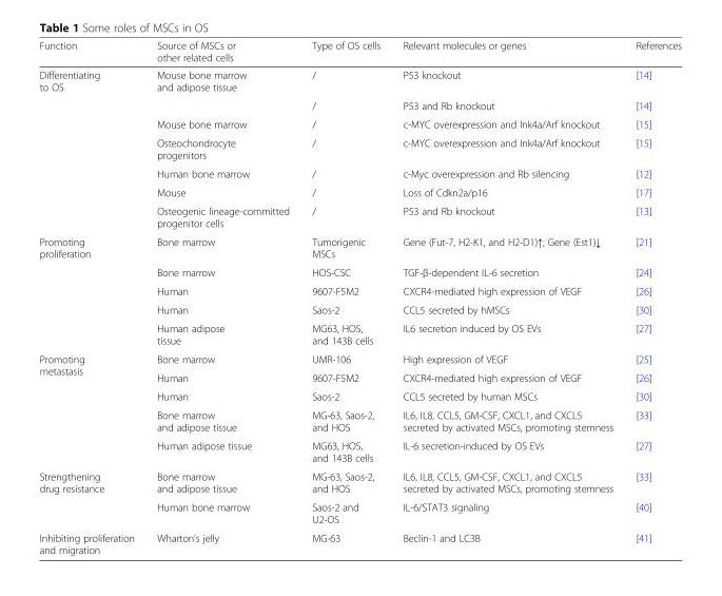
<table><thead><tr><td>Function</td><td>Source of MSCs or other related cells</td><td>Type of OS cells</td><td>Relevant molecules or genes</td><td>References</td></tr></thead><tbody><tr><td rowspan="7">Differentiating to OS</td><td>Mouse bone marrow and adipose tissue</td><td>/</td><td>P53 knockout</td><td>[14]</td></tr><tr><td></td><td>/</td><td>P53 and Rb knockout</td><td>[14]</td></tr><tr><td>Mouse bone marrow</td><td>/</td><td>c-MYC overexpression and Ink4a/Arf knockout</td><td>[15]</td></tr><tr><td>Osteochondrocyte progenitors</td><td>/</td><td>c-MYC overexpression and Ink4a/Arf knockout</td><td>[15]</td></tr><tr><td>Human bone marrow</td><td>/</td><td>c-Myc overexpression and Rb silencing</td><td>[12]</td></tr><tr><td>Mouse</td><td>/</td><td>Loss of Cdkn2a/p16</td><td>[17]</td></tr><tr><td>Osteogenic lineage-committed progenitor cells</td><td>/</td><td>P53 and Rb knockout</td><td>[13]</td></tr><tr><td rowspan="5">Promoting proliferation</td><td>Bone marrow</td><td>Tumorigenic MSCs</td><td>Gene (Fut-7, H2-K1, and H2-D1)↑; Gene (Est1)↓</td><td>[21]</td></tr><tr><td>Bone marrow</td><td>HOS-CSC</td><td>TGF-β-dependent IL-6 secretion</td><td>[24]</td></tr><tr><td>Human</td><td>9607-F5M2</td><td>CXCR4-mediated high expression of VEGF</td><td>[26]</td></tr><tr><td>Human</td><td>Saos-2</td><td>CCL5 secreted by hMSCs</td><td>[30]</td></tr><tr><td>Human adipose tissue</td><td>MG63, HOS, and 143B cells</td><td>IL6 secretion induced by OS EVs</td><td>[27]</td></tr><tr><td rowspan="5">Promoting metastasis</td><td>Bone marrow</td><td>UMR-106</td><td>High expression of VEGF</td><td>[25]</td></tr><tr><td>Human</td><td>9607-F5M2</td><td>CXCR4-mediated high expression of VEGF</td><td>[26]</td></tr><tr><td>Human</td><td>Saos-2</td><td>CCL5 secreted by human MSCs</td><td>[30]</td></tr><tr><td>Bone marrow and adipose tissue</td><td>MG-63, Saos-2, and HOS</td><td>IL6, IL8, CCL5, GM-CSF, CXCL1, and CXCL5 secreted by activated MSCs, promoting stemness</td><td>[33]</td></tr><tr><td>Human adipose tissue</td><td>MG63, HOS, and 143B cells</td><td>IL-6 secretion-induced by OS EVs</td><td>[27]</td></tr><tr><td rowspan="2">Strengthening drug resistance</td><td>Bone marrow and adipose tissue</td><td>MG-63, Saos-2, and HOS</td><td>IL6, IL8, CCL5, GM-CSF, CXCL1, and CXCL5 secreted by activated MSCs, promoting stemness</td><td>[33]</td></tr><tr><td>Human bone marrow</td><td>Saos-2 and U2-OS</td><td>IL-6/STAT3 signaling</td><td>[40]</td></tr><tr><td>Inhibiting proliferation and migration</td><td>Wharton’s jelly</td><td>MG-63</td><td>Beclin-1 and LC3B</td><td>[41]</td></tr></tbody></table>